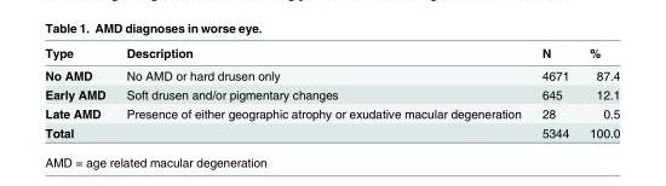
<table><thead><tr><td>Type</td><td>Description</td><td>N</td><td>%</td></tr></thead><tbody><tr><td>No AMD</td><td>No AMD or hard drusen only</td><td>4671</td><td>87.4</td></tr><tr><td>Early AMD</td><td>Soft drusen and/or pigmentary changes</td><td>645</td><td>12.1</td></tr><tr><td>Late AMD</td><td>Presence of either geographic atrophy or exudative macular degeneration</td><td>28</td><td>0.5</td></tr><tr><td>Total</td><td></td><td>5344</td><td>100.0</td></tr></tbody></table>